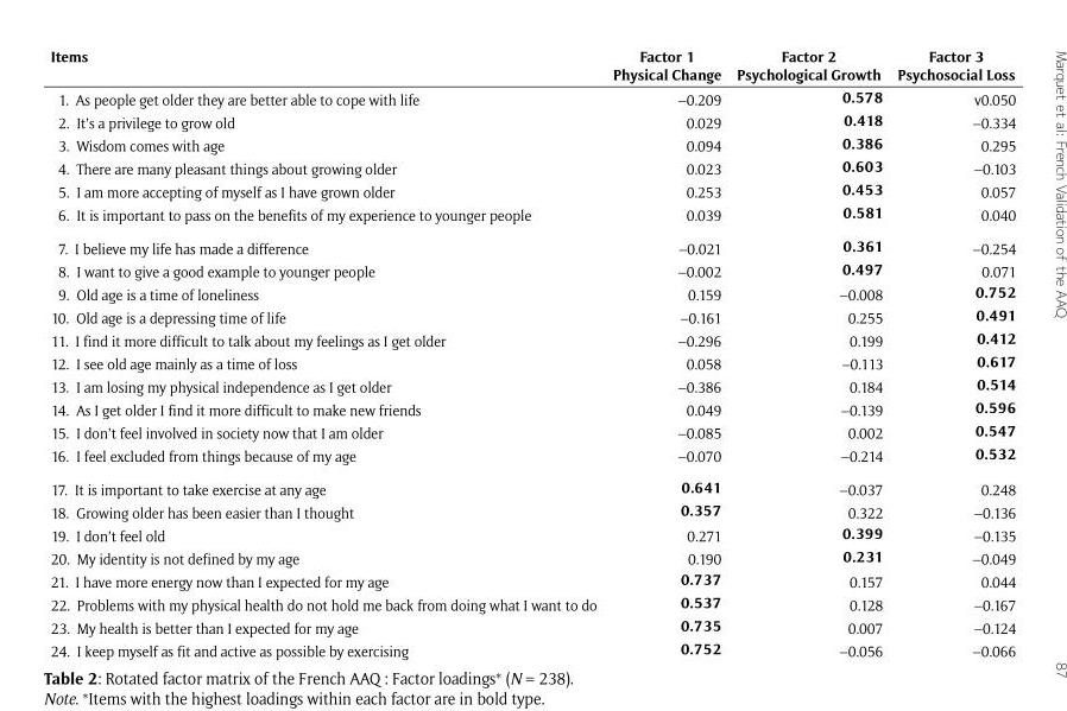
<table><thead><tr><td>Items</td><td>Factor 1 Physical Change</td><td>Factor 2 Psychological Growth</td><td>Factor 3 Psychosocial Loss</td></tr></thead><tbody><tr><td>1. As people get older they are better able to cope with life</td><td>–0.209</td><td>0.578</td><td>v0.050</td></tr><tr><td>2. It’s a privilege to grow old</td><td>0.029</td><td>0.418</td><td>–0.334</td></tr><tr><td>3. Wisdom comes with age</td><td>0.094</td><td>0.386</td><td>0.295</td></tr><tr><td>4. There are many pleasant things about growing older</td><td>0.023</td><td>0.603</td><td>–0.103</td></tr><tr><td>5. I am more accepting of myself as I have grown older</td><td>0.253</td><td>0.453</td><td>0.057</td></tr><tr><td>6. It is important to pass on the benefits of my experience to younger people</td><td>0.039</td><td>0.581</td><td>0.040</td></tr><tr><td>7. I believe my life has made a difference</td><td>–0.021</td><td>0.361</td><td>–0.254</td></tr><tr><td>8. I want to give a good example to younger people</td><td>–0.002</td><td>0.497</td><td>0.071</td></tr><tr><td>9. Old age is a time of loneliness</td><td>0.159</td><td>–0.008</td><td>0.752</td></tr><tr><td>10. Old age is a depressing time of life</td><td>–0.161</td><td>0.255</td><td>0.491</td></tr><tr><td>11. I find it more difficult to talk about my feelings as I get older</td><td>–0.296</td><td>0.199</td><td>0.412</td></tr><tr><td>12. I see old age mainly as a time of loss</td><td>0.058</td><td>–0.113</td><td>0.617</td></tr><tr><td>13. I am losing my physical independence as I get older</td><td>–0.386</td><td>0.184</td><td>0.514</td></tr><tr><td>14. As I get older I find it more difficult to make new friends</td><td>0.049</td><td>–0.139</td><td>0.596</td></tr><tr><td>15. I don’t feel involved in society now that I am older</td><td>–0.085</td><td>0.002</td><td>0.547</td></tr><tr><td>16. I feel excluded from things because of my age</td><td>–0.070</td><td>–0.214</td><td>0.532</td></tr><tr><td>17. It is important to take exercise at any age</td><td>0.641</td><td>–0.037</td><td>0.248</td></tr><tr><td>18. Growing older has been easier than I thought</td><td>0.357</td><td>0.322</td><td>–0.136</td></tr><tr><td>19. I don’t feel old</td><td>0.271</td><td>0.399</td><td>–0.135</td></tr><tr><td>20. My identity is not defined by my age</td><td>0.190</td><td>0.231</td><td>–0.049</td></tr><tr><td>21. I have more energy now than I expected for my age</td><td>0.737</td><td>0.157</td><td>0.044</td></tr><tr><td>22. Problems with my physical health do not hold me back from doing what I want to do</td><td>0.537</td><td>0.128</td><td>–0.167</td></tr><tr><td>23. My health is better than I expected for my age</td><td>0.735</td><td>0.007</td><td>–0.124</td></tr><tr><td>24. I keep myself as fit and active as possible by exercising</td><td>0.752</td><td>–0.056</td><td>–0.066</td></tr></tbody></table>